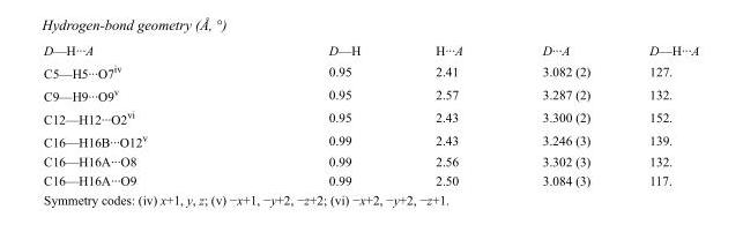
<table><tbody><tr><td>D—H···A</td><td>D—H</td><td>H···A</td><td>D···A</td><td>D—H···A</td></tr><tr><td>C5—H5···O7<sup>iv</sup></td><td>0.95</td><td>2.41</td><td>3.082 (2)</td><td>127.</td></tr><tr><td>C9—H9···O9<sup>v</sup></td><td>0.95</td><td>2.57</td><td>3.287 (2)</td><td>132.</td></tr><tr><td>C12—H12···O2<sup>vi</sup></td><td>0.95</td><td>2.43</td><td>3.300 (2)</td><td>152.</td></tr><tr><td>C16—H16B···O12<sup>v</sup></td><td>0.99</td><td>2.43</td><td>3.246 (3)</td><td>139.</td></tr><tr><td>C16—H16A···O8</td><td>0.99</td><td>2.56</td><td>3.302 (3)</td><td>132.</td></tr><tr><td>C16—H16A···O9</td><td>0.99</td><td>2.50</td><td>3.084 (3)</td><td>117.</td></tr></tbody></table>